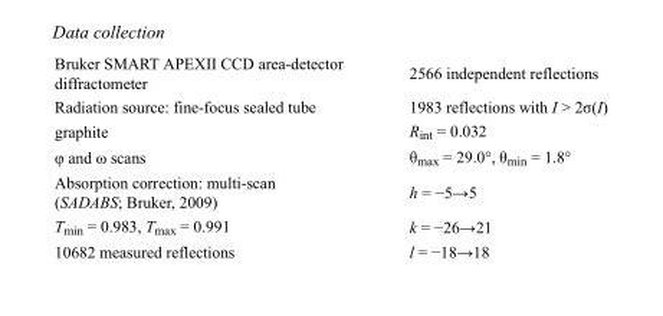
<table><tbody><tr><td>Bruker SMART APEXII CCD area-detector diffractometer</td><td>2566 independent reflections</td></tr><tr><td>Radiation source: fine-focus sealed tube</td><td>1983 reflections with I &gt; 2σ(I)</td></tr><tr><td>graphite</td><td>R<sub>int</sub> = 0.032</td></tr><tr><td>φ and ω scans</td><td>θ<sub>max</sub> = 29.0°, θ<sub>min</sub> = 1.8°</td></tr><tr><td>Absorption correction: multi-scan (SADABS; Bruker, 2009)</td><td>h = −5→5</td></tr><tr><td>T<sub>min</sub> = 0.983, T<sub>max</sub> = 0.991</td><td>k = −26→21</td></tr><tr><td>10682 measured reflections</td><td>l = −18→18</td></tr></tbody></table>